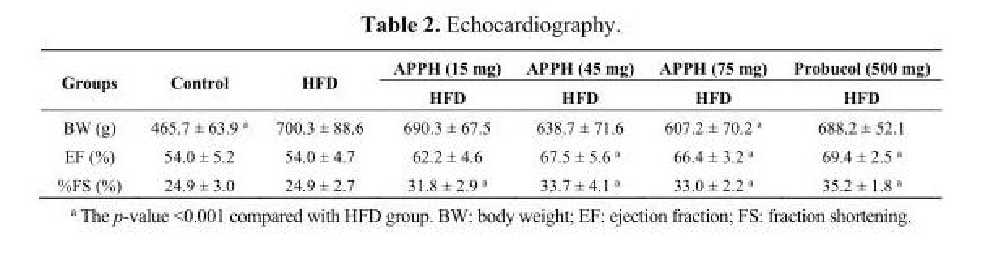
<table><thead><tr><td rowspan="2">Groups</td><td rowspan="2">Control</td><td rowspan="2">HFD</td><td rowspan="2">APPH (15 mg) HFD</td><td rowspan="2">APPH (45 mg) HFD</td><td rowspan="2">APPH (75 mg) HFD</td><td rowspan="2">Probucol (500 mg) HFD</td></tr><tr></tr></thead><tbody><tr><td>BW (g)</td><td>465.7 ± 63.9 <sup>a</sup></td><td>700.3 ± 88.6</td><td>690.3 ± 67.5</td><td>638.7 ± 71.6</td><td>607.2 ± 70.2 <sup>a</sup></td><td>688.2 ± 52.1</td></tr><tr><td>EF (%)</td><td>54.0 ± 5.2</td><td>54.0 ± 4.7</td><td>62.2 ± 4.6</td><td>67.5 ± 5.6 <sup>a</sup></td><td>66.4 ± 3.2 <sup>a</sup></td><td>69.4 ± 2.5 <sup>a</sup></td></tr><tr><td>%FS (%)</td><td>24.9 ± 3.0</td><td>24.9 ± 2.7</td><td>31.8 ± 2.9 <sup>a</sup></td><td>33.7 ± 4.1 <sup>a</sup></td><td>33.0 ± 2.2 <sup>a</sup></td><td>35.2 ± 1.8 <sup>a</sup></td></tr></tbody></table>